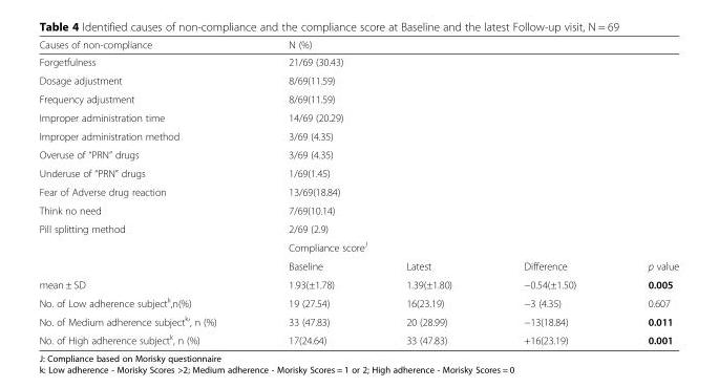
<table><thead><tr><td>Causes of non-compliance</td><td colspan="4">N (%)</td></tr></thead><tbody><tr><td>Forgetfulness</td><td colspan="4">21/69 (30.43)</td></tr><tr><td>Dosage adjustment</td><td colspan="4">8/69(11.59)</td></tr><tr><td>Frequency adjustment</td><td colspan="4">8/69(11.59)</td></tr><tr><td>Improper administration time</td><td colspan="4">14/69 (20.29)</td></tr><tr><td>Improper administration method</td><td colspan="4">3/69 (4.35)</td></tr><tr><td>Overuse of “PRN” drugs</td><td colspan="4">3/69 (4.35)</td></tr><tr><td>Underuse of “PRN” drugs</td><td colspan="4">1/69(1.45)</td></tr><tr><td>Fear of Adverse drug reaction</td><td colspan="4">13/69(18.84)</td></tr><tr><td>Think no need</td><td colspan="4">7/69(10.14)</td></tr><tr><td rowspan="3">Pill splitting method</td><td colspan="4">2/69 (2.9)</td></tr><tr><td colspan="4">Compliance score<sup>J</sup></td></tr><tr><td>Baseline</td><td>Latest</td><td>Difference</td><td>p value</td></tr><tr><td>mean ± SD</td><td>1.93(±1.78)</td><td>1.39(±1.80)</td><td>−0.54(±1.50)</td><td>0.005</td></tr><tr><td>No. of Low adherence subject<sup>k</sup>,n(%)</td><td>19 (27.54)</td><td>16(23.19)</td><td>−3 (4.35)</td><td>0.607</td></tr><tr><td>No. of Medium adherence subject<sup>k</sup>’, n (%)</td><td>33 (47.83)</td><td>20 (28.99)</td><td>−13(18.84)</td><td>0.011</td></tr><tr><td>No. of High adherence subject<sup>k</sup>, n (%)</td><td>17(24.64)</td><td>33 (47.83)</td><td>+16(23.19)</td><td>0.001</td></tr></tbody></table>